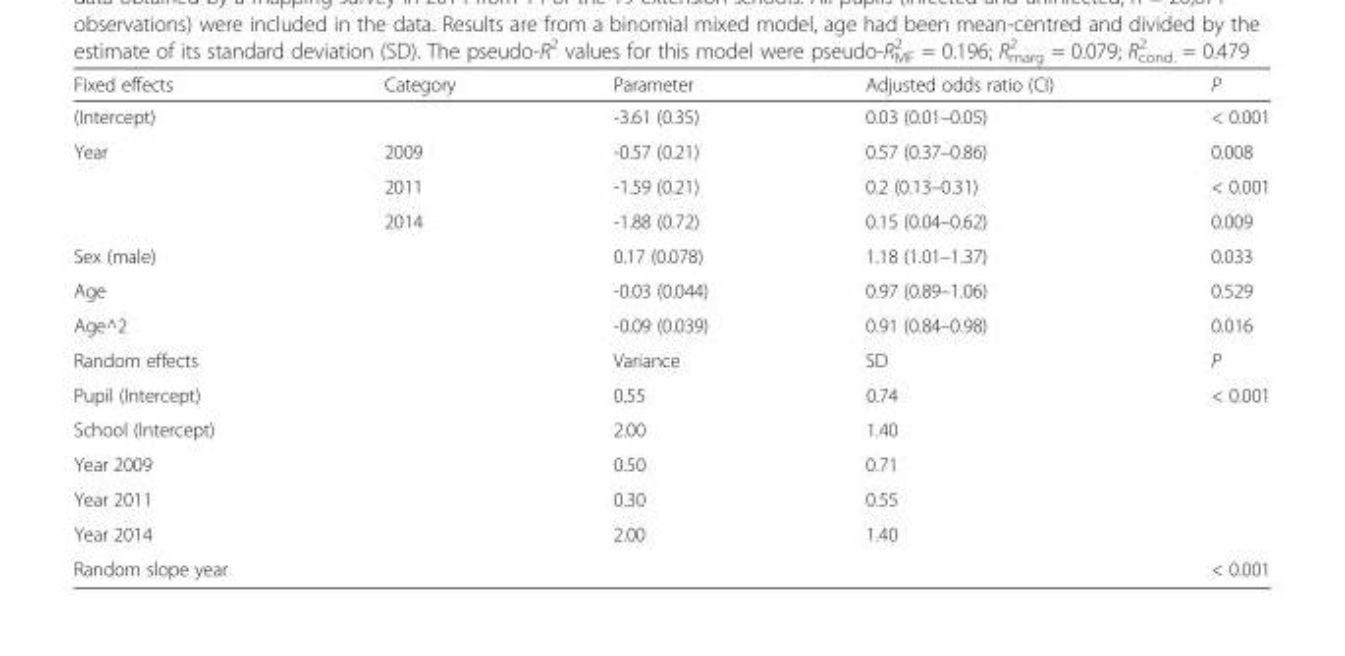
<table><thead><tr><td>Fixed effects</td><td>Category</td><td>Parameter</td><td>Adjusted odds ratio (CI)</td><td>P</td></tr></thead><tbody><tr><td>(Intercept)</td><td></td><td>-3.61 (0.35)</td><td>0.03 (0.01–0.05)</td><td>&lt; 0.001</td></tr><tr><td rowspan="3">Year</td><td>2009</td><td>-0.57 (0.21)</td><td>0.57 (0.37–0.86)</td><td>0.008</td></tr><tr><td>2011</td><td>-1.59 (0.21)</td><td>0.2 (0.13–0.31)</td><td>&lt; 0.001</td></tr><tr><td>2014</td><td>-1.88 (0.72)</td><td>0.15 (0.04–0.62)</td><td>0.009</td></tr><tr><td>Sex (male)</td><td></td><td>0.17 (0.078)</td><td>1.18 (1.01–1.37)</td><td>0.033</td></tr><tr><td>Age</td><td></td><td>-0.03 (0.044)</td><td>0.97 (0.89–1.06)</td><td>0.529</td></tr><tr><td>Age^2</td><td></td><td>-0.09 (0.039)</td><td>0.91 (0.84–0.98)</td><td>0.016</td></tr><tr><td>Random effects</td><td></td><td>Variance</td><td>SD</td><td>P</td></tr><tr><td colspan="2">Pupil (Intercept)</td><td>0.55</td><td>0.74</td><td>&lt; 0.001</td></tr><tr><td colspan="2">School (Intercept)</td><td>2.00</td><td>1.40</td><td></td></tr><tr><td>Year 2009</td><td></td><td>0.50</td><td>0.71</td><td></td></tr><tr><td>Year 2011</td><td></td><td>0.30</td><td>0.55</td><td></td></tr><tr><td>Year 2014</td><td></td><td>2.00</td><td>1.40</td><td></td></tr><tr><td>Random slope year</td><td></td><td></td><td></td><td>&lt; 0.001</td></tr></tbody></table>